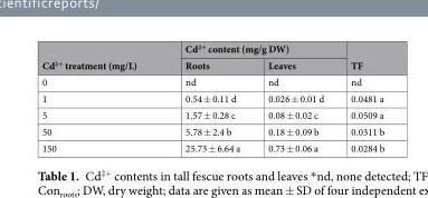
<table><thead><tr><td rowspan="2">Cd<sup>2+</sup> treatment (mg/L)</td><td colspan="2">Cd<sup>2+</sup> content (mg/g DW)</td><td rowspan="2">TF</td></tr><tr><td>Roots</td><td>Leaves</td></tr></thead><tbody><tr><td>0</td><td>nd</td><td>nd</td><td>nd</td></tr><tr><td>1</td><td>0.54 ± 0.11 d</td><td>0.026 ± 0.01 d</td><td>0.0481 a</td></tr><tr><td>5</td><td>1.57 ± 0.28 c</td><td>0.08 ± 0.02 c</td><td>0.0509 a</td></tr><tr><td>50</td><td>5.78 ± 2.4 b</td><td>0.18 ± 0.09 b</td><td>0.0311 b</td></tr><tr><td>150</td><td>25.73 ± 6.64 a</td><td>0.73 ± 0.06 a</td><td>0.0284 b</td></tr></tbody></table>